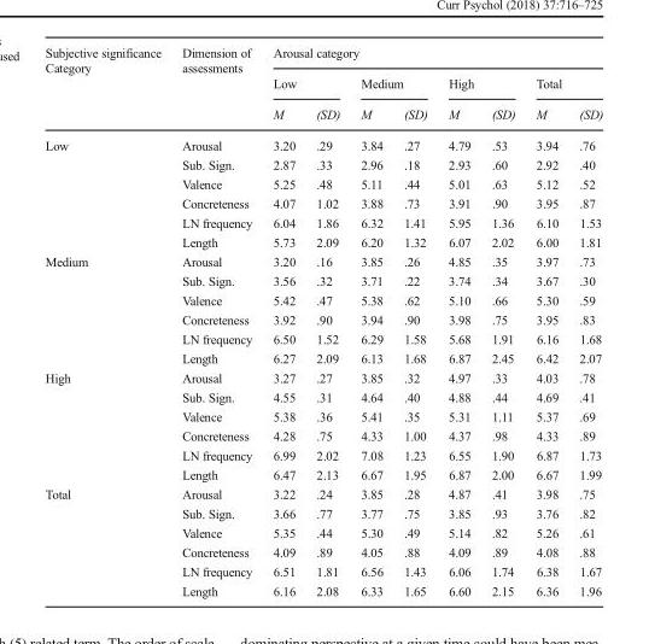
<table><thead><tr><td rowspan="3">Subjective significance Category</td><td rowspan="3">Dimension of assessments</td><td colspan="8">Arousal category</td></tr><tr><td colspan="2">Low</td><td colspan="2">Medium</td><td colspan="2">High</td><td colspan="2">Total</td></tr><tr><td>M</td><td>(SD)</td><td>M</td><td>(SD)</td><td>M</td><td>(SD)</td><td>M</td><td>(SD)</td></tr></thead><tbody><tr><td rowspan="6">Low</td><td>Arousal</td><td>3.20</td><td>.29</td><td>3.84</td><td>.27</td><td>4.79</td><td>.53</td><td>3.94</td><td>.76</td></tr><tr><td>Sub. Sign.</td><td>2.87</td><td>.33</td><td>2.96</td><td>.18</td><td>2.93</td><td>.60</td><td>2.92</td><td>.40</td></tr><tr><td>Valence</td><td>5.25</td><td>.48</td><td>5.11</td><td>.44</td><td>5.01</td><td>.63</td><td>5.12</td><td>.52</td></tr><tr><td>Concreteness</td><td>4.07</td><td>1.02</td><td>3.88</td><td>.73</td><td>3.91</td><td>.90</td><td>3.95</td><td>.87</td></tr><tr><td>LN frequency</td><td>6.04</td><td>1.86</td><td>6.32</td><td>1.41</td><td>5.95</td><td>1.36</td><td>6.10</td><td>1.53</td></tr><tr><td>Length</td><td>5.73</td><td>2.09</td><td>6.20</td><td>1.32</td><td>6.07</td><td>2.02</td><td>6.00</td><td>1.81</td></tr><tr><td rowspan="6">Medium</td><td>Arousal</td><td>3.20</td><td>.16</td><td>3.85</td><td>.26</td><td>4.85</td><td>.35</td><td>3.97</td><td>.73</td></tr><tr><td>Sub. Sign.</td><td>3.56</td><td>.32</td><td>3.71</td><td>.22</td><td>3.74</td><td>.34</td><td>3.67</td><td>.30</td></tr><tr><td>Valence</td><td>5.42</td><td>.47</td><td>5.38</td><td>.62</td><td>5.10</td><td>.66</td><td>5.30</td><td>.59</td></tr><tr><td>Concreteness</td><td>3.92</td><td>.90</td><td>3.94</td><td>.90</td><td>3.98</td><td>.75</td><td>3.95</td><td>.83</td></tr><tr><td>LN frequency</td><td>6.50</td><td>1.52</td><td>6.29</td><td>1.58</td><td>5.68</td><td>1.91</td><td>6.16</td><td>1.68</td></tr><tr><td>Length</td><td>6.27</td><td>2.09</td><td>6.13</td><td>1.68</td><td>6.87</td><td>2.45</td><td>6.42</td><td>2.07</td></tr><tr><td rowspan="6">High</td><td>Arousal</td><td>3.27</td><td>.27</td><td>3.85</td><td>.32</td><td>4.97</td><td>.33</td><td>4.03</td><td>.78</td></tr><tr><td>Sub. Sign.</td><td>4.55</td><td>.31</td><td>4.64</td><td>.40</td><td>4.88</td><td>.44</td><td>4.69</td><td>.41</td></tr><tr><td>Valence</td><td>5.38</td><td>.36</td><td>5.41</td><td>.35</td><td>5.31</td><td>1.11</td><td>5.37</td><td>.69</td></tr><tr><td>Concreteness</td><td>4.28</td><td>.75</td><td>4.33</td><td>1.00</td><td>4.37</td><td>.98</td><td>4.33</td><td>.89</td></tr><tr><td>LN frequency</td><td>6.99</td><td>2.02</td><td>7.08</td><td>1.23</td><td>6.55</td><td>1.90</td><td>6.87</td><td>1.73</td></tr><tr><td>Length</td><td>6.47</td><td>2.13</td><td>6.67</td><td>1.95</td><td>6.87</td><td>2.00</td><td>6.67</td><td>1.99</td></tr><tr><td rowspan="6">Total</td><td>Arousal</td><td>3.22</td><td>.24</td><td>3.85</td><td>.28</td><td>4.87</td><td>.41</td><td>3.98</td><td>.75</td></tr><tr><td>Sub. Sign.</td><td>3.66</td><td>.77</td><td>3.77</td><td>.75</td><td>3.85</td><td>.93</td><td>3.76</td><td>.82</td></tr><tr><td>Valence</td><td>5.35</td><td>.44</td><td>5.30</td><td>.49</td><td>5.14</td><td>.82</td><td>5.26</td><td>.61</td></tr><tr><td>Concreteness</td><td>4.09</td><td>.89</td><td>4.05</td><td>.88</td><td>4.09</td><td>.89</td><td>4.08</td><td>.88</td></tr><tr><td>LN frequency</td><td>6.51</td><td>1.81</td><td>6.56</td><td>1.43</td><td>6.06</td><td>1.74</td><td>6.38</td><td>1.67</td></tr><tr><td>Length</td><td>6.16</td><td>2.08</td><td>6.33</td><td>1.65</td><td>6.60</td><td>2.15</td><td>6.36</td><td>1.96</td></tr></tbody></table>